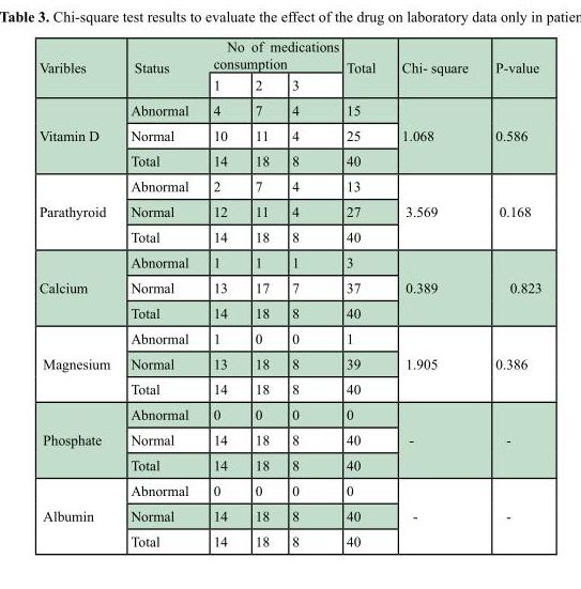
<table><thead><tr><td rowspan="2">Varibles</td><td rowspan="2">Status</td><td colspan="3">No of medications consumption</td><td rowspan="2">Total</td><td rowspan="2">Chi- square</td><td rowspan="2">P-value</td></tr><tr><td>1</td><td>2</td><td>3</td></tr></thead><tbody><tr><td rowspan="3">Vitamin D</td><td>Abnormal</td><td>4</td><td>7</td><td>4</td><td>15</td><td rowspan="3">1.068</td><td rowspan="3">0.586</td></tr><tr><td>Normal</td><td>10</td><td>11</td><td>4</td><td>25</td></tr><tr><td>Total</td><td>14</td><td>18</td><td>8</td><td>40</td></tr><tr><td rowspan="3">Parathyroid</td><td>Abnormal</td><td>2</td><td>7</td><td>4</td><td>13</td><td rowspan="3">3.569</td><td rowspan="3">0.168</td></tr><tr><td>Normal</td><td>12</td><td>11</td><td>4</td><td>27</td></tr><tr><td>Total</td><td>14</td><td>18</td><td>8</td><td>40</td></tr><tr><td rowspan="3">Calcium</td><td>Abnormal</td><td>1</td><td>1</td><td>1</td><td>3</td><td rowspan="3">0.389</td><td rowspan="3">0.823</td></tr><tr><td>Normal</td><td>13</td><td>17</td><td>7</td><td>37</td></tr><tr><td>Total</td><td>14</td><td>18</td><td>8</td><td>40</td></tr><tr><td rowspan="3">Magnesium</td><td>Abnormal</td><td>1</td><td>0</td><td>0</td><td>1</td><td rowspan="3">1.905</td><td rowspan="3">0.386</td></tr><tr><td>Normal</td><td>13</td><td>18</td><td>8</td><td>39</td></tr><tr><td>Total</td><td>14</td><td>18</td><td>8</td><td>40</td></tr><tr><td rowspan="3">Phosphate</td><td>Abnormal</td><td>0</td><td>0</td><td>0</td><td>0</td><td rowspan="3">-</td><td rowspan="3">-</td></tr><tr><td>Normal</td><td>14</td><td>18</td><td>8</td><td>40</td></tr><tr><td>Total</td><td>14</td><td>18</td><td>8</td><td>40</td></tr><tr><td rowspan="3">Albumin</td><td>Abnormal</td><td>0</td><td>0</td><td>0</td><td>0</td><td rowspan="3">-</td><td rowspan="3">-</td></tr><tr><td>Normal</td><td>14</td><td>18</td><td>8</td><td>40</td></tr><tr><td>Total</td><td>14</td><td>18</td><td>8</td><td>40</td></tr></tbody></table>